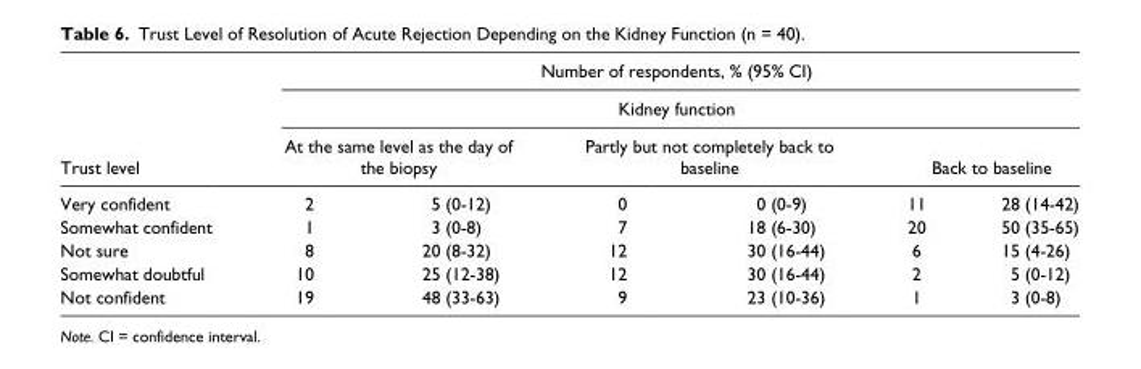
<table><thead><tr><td rowspan="4">Trust level Very confident</td><td rowspan="2" colspan="6">Number of respondents, % (95% CI) Kidney function</td></tr><tr></tr><tr><td colspan="2">At the same level as the day of the biopsy</td><td colspan="2">Partly but not completely back to baseline</td><td colspan="2">Back to baseline</td></tr><tr><td>2</td><td>5 (0-12)</td><td>0</td><td>0 (0-9)</td><td>11</td><td>28 (14-42)</td></tr></thead><tbody><tr><td>Somewhat confident</td><td>1</td><td>3 (0-8)</td><td>7</td><td>18 (6-30)</td><td>20</td><td>50 (35-65)</td></tr><tr><td>Not sure</td><td>8</td><td>20 (8-32)</td><td>12</td><td>30 (16-44)</td><td>6</td><td>15 (4-26)</td></tr><tr><td>Somewhat doubtful</td><td>10</td><td>25 (12-38)</td><td>12</td><td>30 (16-44)</td><td>2</td><td>5 (0-12)</td></tr><tr><td>Not confident</td><td>19</td><td>48 (33-63)</td><td>9</td><td>23 (10-36)</td><td>1</td><td>3 (0-8)</td></tr></tbody></table>